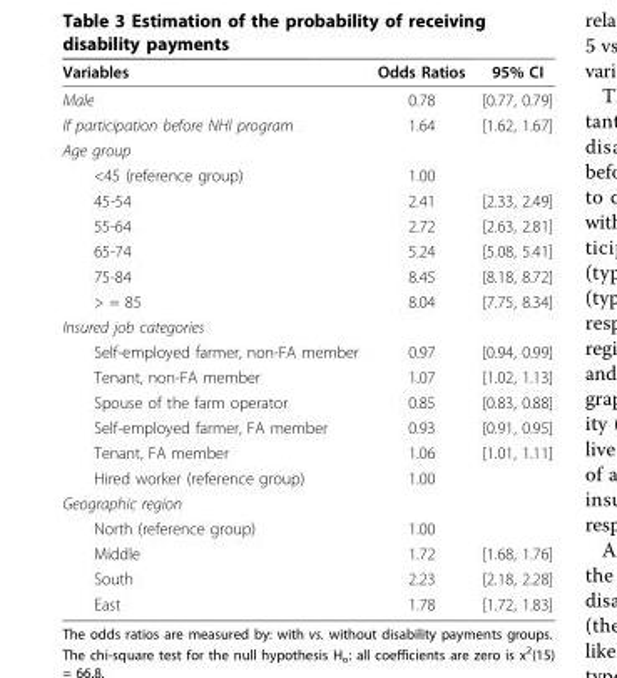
<table><thead><tr><td>Variables</td><td>Odds Ratios</td><td>95% CI</td></tr></thead><tbody><tr><td>Male</td><td>0.78</td><td>[0.77, 0.79]</td></tr><tr><td>If participation before NHI program</td><td>1.64</td><td>[1.62, 1.67]</td></tr><tr><td colspan="3">Age group</td></tr><tr><td>&lt;45 (reference group)</td><td>1.00</td><td></td></tr><tr><td>45-54</td><td>2.41</td><td>[2.33, 2.49]</td></tr><tr><td>55-64</td><td>2.72</td><td>[2.63, 2.81]</td></tr><tr><td>65-74</td><td>5.24</td><td>[5.08, 5.41]</td></tr><tr><td>75-84</td><td>8.45</td><td>[8.18, 8.72]</td></tr><tr><td>&gt; = 85</td><td>8.04</td><td>[7.75, 8.34]</td></tr><tr><td colspan="3">Insured job categories</td></tr><tr><td>Self-employed farmer, non-FA member</td><td>0.97</td><td>[0.94, 0.99]</td></tr><tr><td>Tenant, non-FA member</td><td>1.07</td><td>[1.02, 1.13]</td></tr><tr><td>Spouse of the farm operator</td><td>0.85</td><td>[0.83, 0.88]</td></tr><tr><td>Self-employed farmer, FA member</td><td>0.93</td><td>[0.91, 0.95]</td></tr><tr><td>Tenant, FA member</td><td>1.06</td><td>[1.01, 1.11]</td></tr><tr><td>Hired worker (reference group)</td><td>1.00</td><td></td></tr><tr><td colspan="3">Geographic region</td></tr><tr><td>North (reference group)</td><td>1.00</td><td></td></tr><tr><td>Middle</td><td>1.72</td><td>[1.68, 1.76]</td></tr><tr><td>South</td><td>2.23</td><td>[2.18, 2.28]</td></tr><tr><td>East</td><td>1.78</td><td>[1.72, 1.83]</td></tr></tbody></table>